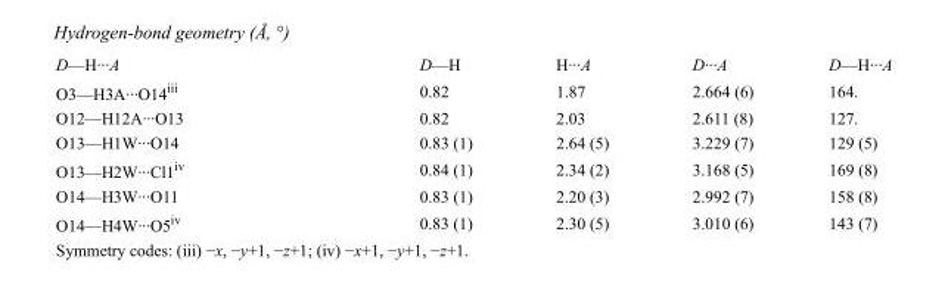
<table><tbody><tr><td>D—H···A</td><td>D—H</td><td>H···A</td><td>D···A</td><td>D—H···A</td></tr><tr><td>O3—H3A···O14<sup>iii</sup></td><td>0.82</td><td>1.87</td><td>2.664 (6)</td><td>164.</td></tr><tr><td>O12—H12A···O13</td><td>0.82</td><td>2.03</td><td>2.611 (8)</td><td>127.</td></tr><tr><td>O13—H1W···O14</td><td>0.83 (1)</td><td>2.64 (5)</td><td>3.229 (7)</td><td>129 (5)</td></tr><tr><td>O13—H2W···Cl1<sup>iv</sup></td><td>0.84 (1)</td><td>2.34 (2)</td><td>3.168 (5)</td><td>169 (8)</td></tr><tr><td>O14—H3W···O11</td><td>0.83 (1)</td><td>2.20 (3)</td><td>2.992 (7)</td><td>158 (8)</td></tr><tr><td>O14—H4W···O5<sup>iv</sup></td><td>0.83 (1)</td><td>2.30 (5)</td><td>3.010 (6)</td><td>143 (7)</td></tr></tbody></table>